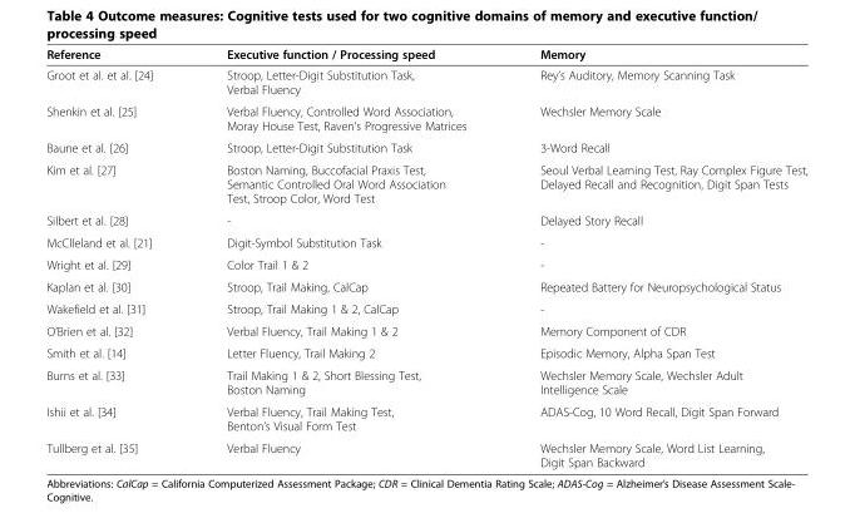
<table><thead><tr><td>Reference</td><td>Executive function / Processing speed</td><td>Memory</td></tr></thead><tbody><tr><td>Groot et al. et al. [24]</td><td>Stroop, Letter-Digit Substitution Task, Verbal Fluency</td><td>Rey’s Auditory, Memory Scanning Task</td></tr><tr><td>Shenkin et al. [25]</td><td>Verbal Fluency, Controlled Word Association, Moray House Test, Raven’s Progressive Matrices</td><td>Wechsler Memory Scale</td></tr><tr><td>Baune et al. [26]</td><td>Stroop, Letter-Digit Substitution Task</td><td>3-Word Recall</td></tr><tr><td>Kim et al. [27]</td><td>Boston Naming, Buccofacial Praxis Test, Semantic Controlled Oral Word Association Test, Stroop Color, Word Test</td><td>Seoul Verbal Learning Test, Ray Complex Figure Test, Delayed Recall and Recognition, Digit Span Tests</td></tr><tr><td>Silbert et al. [28]</td><td>-</td><td>Delayed Story Recall</td></tr><tr><td>McClleland et al. [21]</td><td>Digit-Symbol Substitution Task</td><td>-</td></tr><tr><td>Wright et al. [29]</td><td>Color Trail 1 &amp; 2</td><td>-</td></tr><tr><td>Kaplan et al. [30]</td><td>Stroop, Trail Making, CalCap</td><td>Repeated Battery for Neuropsychological Status</td></tr><tr><td>Wakefield et al. [31]</td><td>Stroop, Trail Making 1 &amp; 2, CalCap</td><td>-</td></tr><tr><td>O’Brien et al. [32]</td><td>Verbal Fluency, Trail Making 1 &amp; 2</td><td>Memory Component of CDR</td></tr><tr><td>Smith et al. [14]</td><td>Letter Fluency, Trail Making 2</td><td>Episodic Memory, Alpha Span Test</td></tr><tr><td>Burns et al. [33]</td><td>Trail Making 1 &amp; 2, Short Blessing Test, Boston Naming</td><td>Wechsler Memory Scale, Wechsler Adult Intelligence Scale</td></tr><tr><td>Ishii et al. [34]</td><td>Verbal Fluency, Trail Making Test, Benton’s Visual Form Test</td><td>ADAS-Cog, 10 Word Recall, Digit Span Forward</td></tr><tr><td>Tullberg et al. [35]</td><td>Verbal Fluency</td><td>Wechsler Memory Scale, Word List Learning, Digit Span Backward</td></tr></tbody></table>